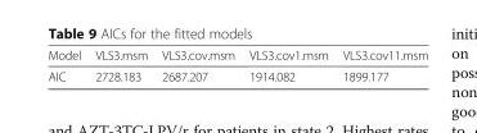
<table><thead><tr><td>Model</td><td>VLS3.msm</td><td>VLS3.cov.msm</td><td>VLS3.cov1.msm</td><td>VLS3.cov11.msm</td></tr></thead><tbody><tr><td>AIC</td><td>2728.183</td><td>2687.207</td><td>1914.082</td><td>1899.177</td></tr></tbody></table>